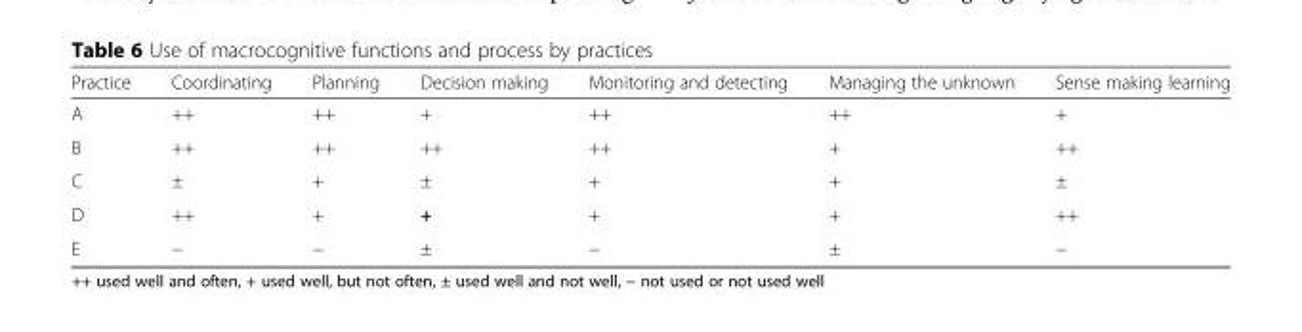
<table><thead><tr><td>Practice</td><td>Coordinating</td><td>Planning</td><td>Decision making</td><td>Monitoring and detecting</td><td>Managing the unknown</td><td>Sense making learning</td></tr></thead><tbody><tr><td>A</td><td>++</td><td>++</td><td>+</td><td>++</td><td>++</td><td>+</td></tr><tr><td>B</td><td>++</td><td>++</td><td>++</td><td>++</td><td>+</td><td>++</td></tr><tr><td>C</td><td>±</td><td>+</td><td>±</td><td>+</td><td>+</td><td>±</td></tr><tr><td>D</td><td>++</td><td>+</td><td>+</td><td>+</td><td>+</td><td>++</td></tr><tr><td>E</td><td>−</td><td>−</td><td>±</td><td>−</td><td>±</td><td>−</td></tr></tbody></table>